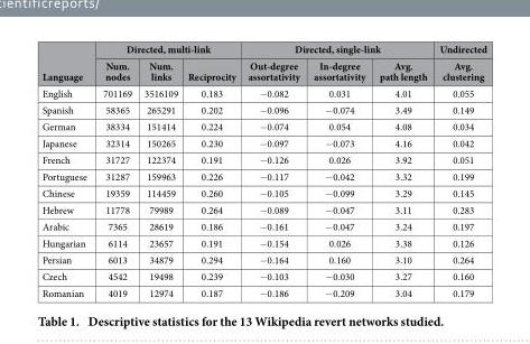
<table><thead><tr><td rowspan="2">Language</td><td colspan="3">Directed, multi-link</td><td colspan="3">Directed, single-link</td><td rowspan="2">Undirected Avg. clustering</td></tr><tr><td>Num. nodes</td><td>Num. links</td><td>Reciprocity</td><td>Out-degree assortativity</td><td>In-degree assortativity</td><td>Avg. path length</td></tr></thead><tbody><tr><td>English</td><td>701169</td><td>3516109</td><td>0.183</td><td>− 0.082</td><td>0.031</td><td>4.01</td><td>0.055</td></tr><tr><td>Spanish</td><td>58365</td><td>265291</td><td>0.202</td><td>− 0.096</td><td>− 0.074</td><td>3.49</td><td>0.149</td></tr><tr><td>German</td><td>38334</td><td>151414</td><td>0.224</td><td>− 0.074</td><td>0.054</td><td>4.08</td><td>0.034</td></tr><tr><td>Japanese</td><td>32314</td><td>150265</td><td>0.230</td><td>− 0.097</td><td>− 0.073</td><td>4.16</td><td>0.042</td></tr><tr><td>French</td><td>31727</td><td>122374</td><td>0.191</td><td>− 0.126</td><td>0.026</td><td>3.92</td><td>0.051</td></tr><tr><td>Portuguese</td><td>31287</td><td>159963</td><td>0.226</td><td>− 0.117</td><td>− 0.042</td><td>3.32</td><td>0.199</td></tr><tr><td>Chinese</td><td>19359</td><td>114459</td><td>0.260</td><td>− 0.105</td><td>− 0.099</td><td>3.29</td><td>0.145</td></tr><tr><td>Hebrew</td><td>11778</td><td>79989</td><td>0.264</td><td>− 0.089</td><td>− 0.047</td><td>3.11</td><td>0.283</td></tr><tr><td>Arabic</td><td>7365</td><td>28619</td><td>0.186</td><td>− 0.161</td><td>− 0.047</td><td>3.24</td><td>0.197</td></tr><tr><td>Hungarian</td><td>6114</td><td>23657</td><td>0.191</td><td>− 0.154</td><td>0.026</td><td>3.38</td><td>0.126</td></tr><tr><td>Persian</td><td>6013</td><td>34879</td><td>0.294</td><td>− 0.164</td><td>0.160</td><td>3.10</td><td>0.264</td></tr><tr><td>Czech</td><td>4542</td><td>19498</td><td>0.239</td><td>− 0.103</td><td>− 0.030</td><td>3.27</td><td>0.160</td></tr><tr><td>Romanian</td><td>4019</td><td>12974</td><td>0.187</td><td>− 0.186</td><td>− 0.209</td><td>3.04</td><td>0.179</td></tr></tbody></table>